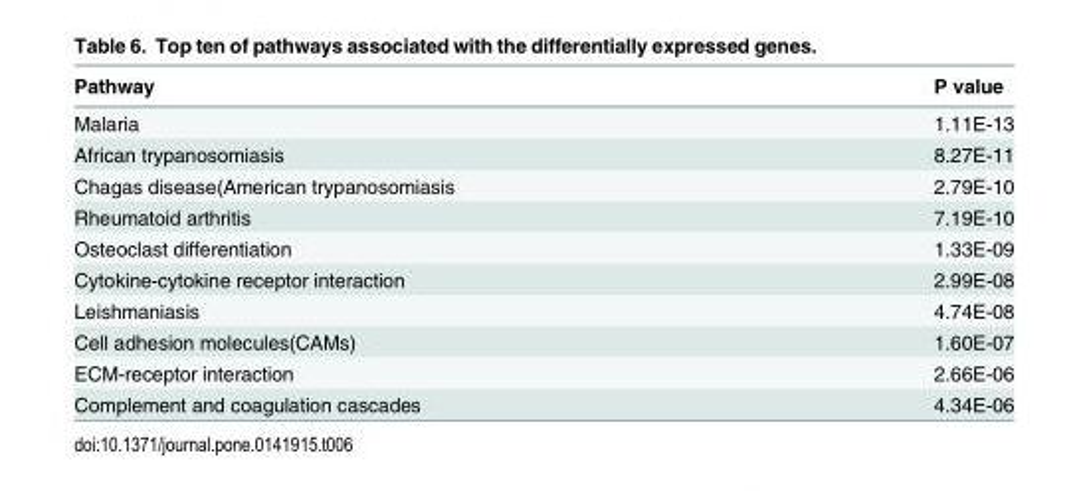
<table><thead><tr><td>Pathway</td><td>P value</td></tr></thead><tbody><tr><td>Malaria</td><td>1.11E-13</td></tr><tr><td>African trypanosomiasis</td><td>8.27E-11</td></tr><tr><td>Chagas disease(American trypanosomiasis</td><td>2.79E-10</td></tr><tr><td>Rheumatoid arthritis</td><td>7.19E-10</td></tr><tr><td>Osteoclast differentiation</td><td>1.33E-09</td></tr><tr><td>Cytokine-cytokine receptor interaction</td><td>2.99E-08</td></tr><tr><td>Leishmaniasis</td><td>4.74E-08</td></tr><tr><td>Cell adhesion molecules(CAMs)</td><td>1.60E-07</td></tr><tr><td>ECM-receptor interaction</td><td>2.66E-06</td></tr><tr><td>Complement and coagulation cascades</td><td>4.34E-06</td></tr></tbody></table>